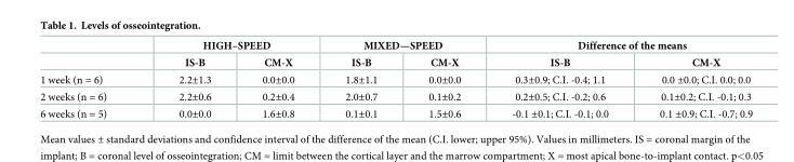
<table><thead><tr><td rowspan="2"></td><td colspan="2">HIGH–SPEED</td><td colspan="2">MIXED—SPEED</td><td colspan="2">Difference of the means</td></tr><tr><td>IS-B</td><td>CM-X</td><td>IS-B</td><td>CM-X</td><td>IS-B</td><td>CM-X</td></tr></thead><tbody><tr><td>1 week (n = 6)</td><td>2.2±1.3</td><td>0.0±0.0</td><td>1.8±1.1</td><td>0.0±0.0</td><td>0.3±0.9; C.I. -0.4; 1.1</td><td>0.0 ±0.0; C.I. 0.0; 0.0</td></tr><tr><td>2 weeks (n = 6)</td><td>2.2±0.6</td><td>0.2±0.4</td><td>2.0±0.7</td><td>0.1±0.2</td><td>0.2±0.5; C.I. -0.2; 0.6</td><td>0.1±0.2; C.I. -0.1; 0.3</td></tr><tr><td>6 weeks (n = 5)</td><td>0.0±0.0</td><td>1.6±0.8</td><td>0.1±0.1</td><td>1.5±0.6</td><td>-0.1 ±0.1; C.I. -0.1; 0.0</td><td>0.1 ±0.9; C.I. -0.7; 0.9</td></tr></tbody></table>